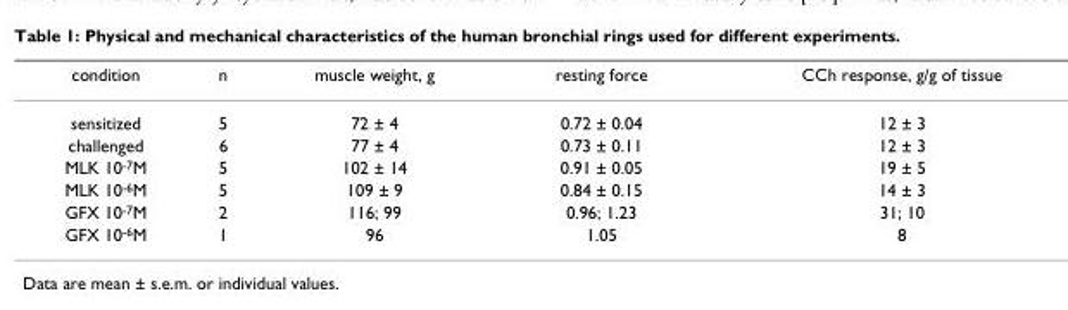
<table><thead><tr><td>condition</td><td>n</td><td>muscle weight, g</td><td>resting force</td><td>CCh response, g/g of tissue</td></tr></thead><tbody><tr><td>sensitized</td><td>5</td><td>72 ± 4</td><td>0.72 ± 0.04</td><td>12 ± 3</td></tr><tr><td>challenged</td><td>6</td><td>77 ± 4</td><td>0.73 ± 0.11</td><td>12 ± 3</td></tr><tr><td>MLK 10<sup>-7</sup>M</td><td>5</td><td>102 ± 14</td><td>0.91 ± 0.05</td><td>19 ± 5</td></tr><tr><td>MLK 10<sup>-6</sup>M</td><td>5</td><td>109 ± 9</td><td>0.84 ± 0.15</td><td>14 ± 3</td></tr><tr><td>GFX 10<sup>-7</sup>M</td><td>2</td><td>116; 99</td><td>0.96; 1.23</td><td>31; 10</td></tr><tr><td>GFX 10<sup>-6</sup>M</td><td>1</td><td>96</td><td>1.05</td><td>8</td></tr></tbody></table>